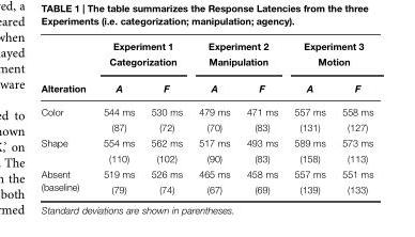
<table><thead><tr><td rowspan="3">Alteration</td><td rowspan="2" colspan="2">Experiment 1 Categorization</td><td rowspan="2" colspan="2">Experiment 2 Manipulation</td><td rowspan="2" colspan="2">Experiment 3 Motion</td></tr><tr></tr><tr><td>A</td><td>F</td><td>A</td><td>F</td><td>A</td><td>F</td></tr></thead><tbody><tr><td>Color</td><td>544 ms (87)</td><td>530 ms (72)</td><td>479 ms (70)</td><td>471 ms (83)</td><td>557 ms (131)</td><td>558 ms (127)</td></tr><tr><td>Shape</td><td>554 ms (110)</td><td>562 ms (102)</td><td>517 ms (90)</td><td>493 ms (83)</td><td>589 ms (158)</td><td>573 ms (113)</td></tr><tr><td>Absent (baseline)</td><td>519 ms (79)</td><td>526 ms (74)</td><td>465 ms (67)</td><td>458 ms (69)</td><td>557 ms (139)</td><td>551 ms (133)</td></tr></tbody></table>